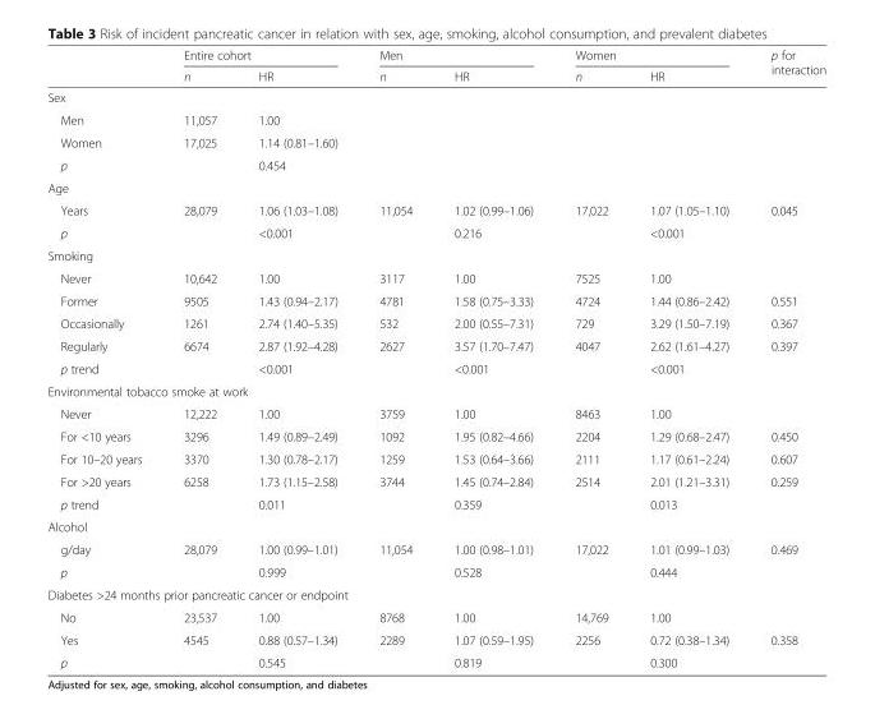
<table><thead><tr><td rowspan="2"></td><td colspan="2">Entire cohort</td><td colspan="2">Men</td><td colspan="2">Women</td><td rowspan="2">p for interaction</td></tr><tr><td>n</td><td>HR</td><td>n</td><td>HR</td><td>n</td><td>HR</td></tr></thead><tbody><tr><td colspan="8">Sex</td></tr><tr><td>Men</td><td>11,057</td><td>1.00</td><td></td><td></td><td></td><td></td><td></td></tr><tr><td>Women</td><td>17,025</td><td>1.14 (0.81–1.60)</td><td></td><td></td><td></td><td></td><td></td></tr><tr><td>p</td><td></td><td>0.454</td><td></td><td></td><td></td><td></td><td></td></tr><tr><td colspan="8">Age</td></tr><tr><td>Years</td><td>28,079</td><td>1.06 (1.03–1.08)</td><td>11,054</td><td>1.02 (0.99–1.06)</td><td>17,022</td><td>1.07 (1.05–1.10)</td><td>0.045</td></tr><tr><td>p</td><td></td><td>&lt;0.001</td><td></td><td>0.216</td><td></td><td>&lt;0.001</td><td></td></tr><tr><td colspan="8">Smoking</td></tr><tr><td>Never</td><td>10,642</td><td>1.00</td><td>3117</td><td>1.00</td><td>7525</td><td>1.00</td><td></td></tr><tr><td>Former</td><td>9505</td><td>1.43 (0.94–2.17)</td><td>4781</td><td>1.58 (0.75–3.33)</td><td>4724</td><td>1.44 (0.86–2.42)</td><td>0.551</td></tr><tr><td>Occasionally</td><td>1261</td><td>2.74 (1.40–5.35)</td><td>532</td><td>2.00 (0.55–7.31)</td><td>729</td><td>3.29 (1.50–7.19)</td><td>0.367</td></tr><tr><td>Regularly</td><td>6674</td><td>2.87 (1.92–4.28)</td><td>2627</td><td>3.57 (1.70–7.47)</td><td>4047</td><td>2.62 (1.61–4.27)</td><td>0.397</td></tr><tr><td>p trend</td><td></td><td>&lt;0.001</td><td></td><td>&lt;0.001</td><td></td><td>&lt;0.001</td><td></td></tr><tr><td colspan="8">Environmental tobacco smoke at work</td></tr><tr><td>Never</td><td>12,222</td><td>1.00</td><td>3759</td><td>1.00</td><td>8463</td><td>1.00</td><td></td></tr><tr><td>For &lt;10 years</td><td>3296</td><td>1.49 (0.89–2.49)</td><td>1092</td><td>1.95 (0.82–4.66)</td><td>2204</td><td>1.29 (0.68–2.47)</td><td>0.450</td></tr><tr><td>For 10–20 years</td><td>3370</td><td>1.30 (0.78–2.17)</td><td>1259</td><td>1.53 (0.64–3.66)</td><td>2111</td><td>1.17 (0.61–2.24)</td><td>0.607</td></tr><tr><td>For &gt;20 years</td><td>6258</td><td>1.73 (1.15–2.58)</td><td>3744</td><td>1.45 (0.74–2.84)</td><td>2514</td><td>2.01 (1.21–3.31)</td><td>0.259</td></tr><tr><td>p trend</td><td></td><td>0.011</td><td></td><td>0.359</td><td></td><td>0.013</td><td></td></tr><tr><td colspan="8">Alcohol</td></tr><tr><td>g/day</td><td>28,079</td><td>1.00 (0.99–1.01)</td><td>11,054</td><td>1.00 (0.98–1.01)</td><td>17,022</td><td>1.01 (0.99–1.03)</td><td>0.469</td></tr><tr><td>p</td><td></td><td>0.999</td><td></td><td>0.528</td><td></td><td>0.444</td><td></td></tr><tr><td colspan="8">Diabetes &gt;24 months prior pancreatic cancer or endpoint</td></tr><tr><td>No</td><td>23,537</td><td>1.00</td><td>8768</td><td>1.00</td><td>14,769</td><td>1.00</td><td></td></tr><tr><td>Yes</td><td>4545</td><td>0.88 (0.57–1.34)</td><td>2289</td><td>1.07 (0.59–1.95)</td><td>2256</td><td>0.72 (0.38–1.34)</td><td>0.358</td></tr><tr><td>p</td><td></td><td>0.545</td><td></td><td>0.819</td><td></td><td>0.300</td><td></td></tr></tbody></table>